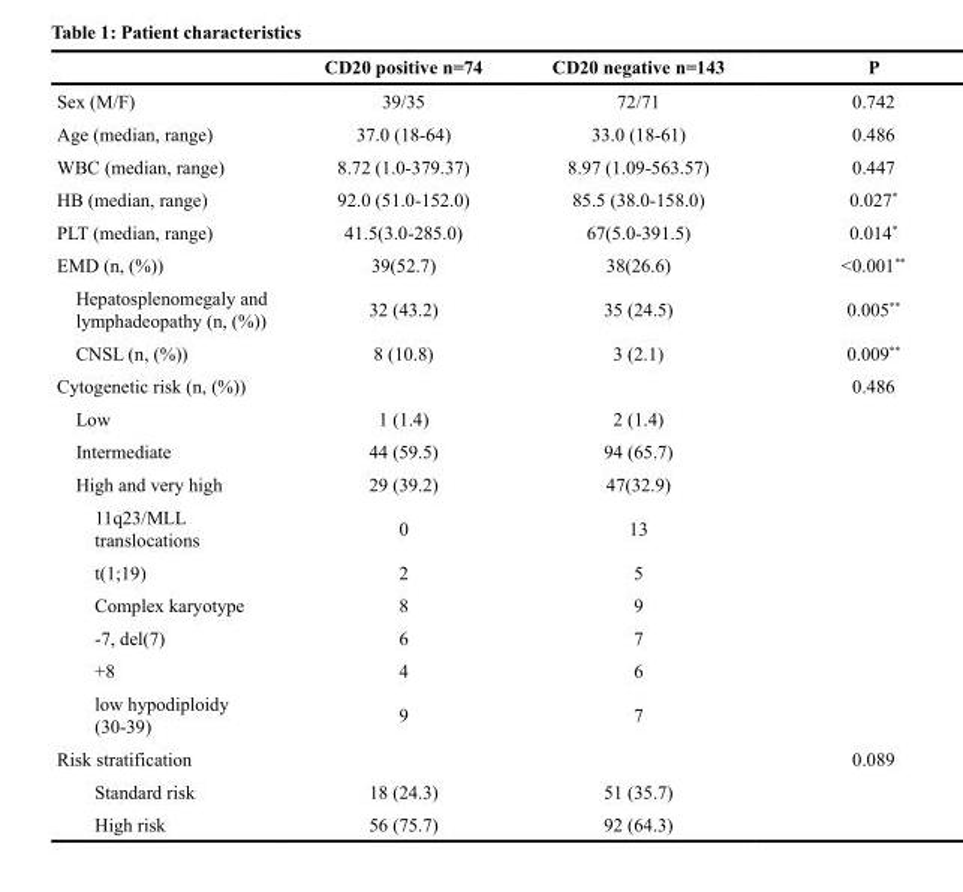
<table><thead><tr><td></td><td>CD20 positive n=74</td><td>CD20 negative n=143</td><td>P</td></tr></thead><tbody><tr><td>Sex (M/F)</td><td>39/35</td><td>72/71</td><td>0.742</td></tr><tr><td>Age (median, range)</td><td>37.0 (18-64)</td><td>33.0 (18-61)</td><td>0.486</td></tr><tr><td>WBC (median, range)</td><td>8.72 (1.0-379.37)</td><td>8.97 (1.09-563.57)</td><td>0.447</td></tr><tr><td>HB (median, range)</td><td>92.0 (51.0-152.0)</td><td>85.5 (38.0-158.0)</td><td>0.027*</td></tr><tr><td>PLT (median, range)</td><td>41.5(3.0-285.0)</td><td>67(5.0-391.5)</td><td>0.014*</td></tr><tr><td>EMD (n, (%))</td><td>39(52.7)</td><td>38(26.6)</td><td>&lt;0.001**</td></tr><tr><td>Hepatosplenomegaly and lymphadeopathy (n, (%))</td><td>32 (43.2)</td><td>35 (24.5)</td><td>0.005**</td></tr><tr><td>CNSL (n, (%))</td><td>8 (10.8)</td><td>3 (2.1)</td><td>0.009**</td></tr><tr><td>Cytogenetic risk (n, (%))</td><td></td><td></td><td>0.486</td></tr><tr><td>Low</td><td>1 (1.4)</td><td>2 (1.4)</td><td></td></tr><tr><td>Intermediate</td><td>44 (59.5)</td><td>94 (65.7)</td><td></td></tr><tr><td>High and very high</td><td>29 (39.2)</td><td>47(32.9)</td><td></td></tr><tr><td>11q23/MLL translocations</td><td>0</td><td>13</td><td></td></tr><tr><td>t(1;19)</td><td>2</td><td>5</td><td></td></tr><tr><td>Complex karyotype</td><td>8</td><td>9</td><td></td></tr><tr><td>-7, del(7)</td><td>6</td><td>7</td><td></td></tr><tr><td>+8</td><td>4</td><td>6</td><td></td></tr><tr><td>low hypodiploidy (30-39)</td><td>9</td><td>7</td><td></td></tr><tr><td>Risk stratification</td><td></td><td></td><td>0.089</td></tr><tr><td>Standard risk</td><td>18 (24.3)</td><td>51 (35.7)</td><td></td></tr><tr><td>High risk</td><td>56 (75.7)</td><td>92 (64.3)</td><td></td></tr></tbody></table>